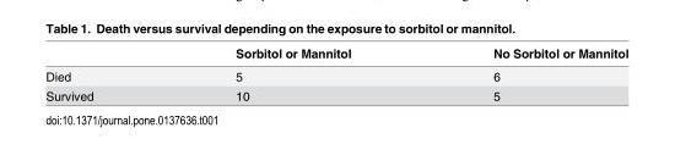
<table><thead><tr><td></td><td>Sorbitol or Mannitol</td><td>No Sorbitol or Mannitol</td></tr></thead><tbody><tr><td>Died</td><td>5</td><td>6</td></tr><tr><td>Survived</td><td>10</td><td>5</td></tr></tbody></table>